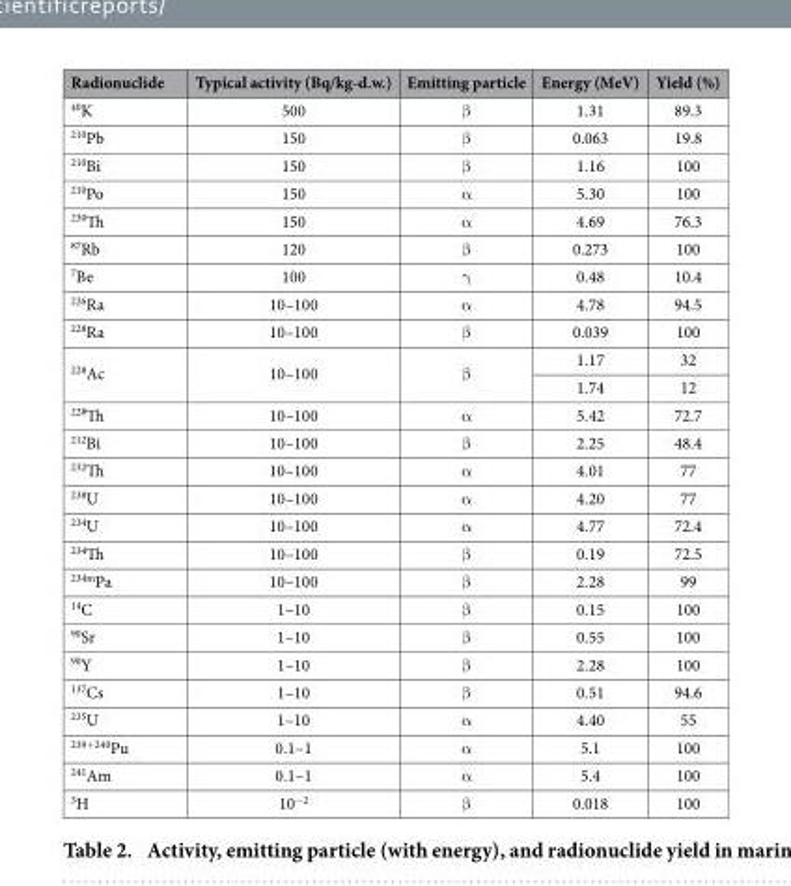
<table><thead><tr><td>Radionuclide</td><td>Typical activity (Bq/kg-d.w.)</td><td>Emitting particle</td><td>Energy (MeV)</td><td>Yield (%)</td></tr></thead><tbody><tr><td><sup>40</sup>K</td><td>500</td><td>β</td><td>1.31</td><td>89.3</td></tr><tr><td><sup>210</sup>Pb</td><td>150</td><td>β</td><td>0.063</td><td>19.8</td></tr><tr><td><sup>210</sup>Bi</td><td>150</td><td>β</td><td>1.16</td><td>100</td></tr><tr><td><sup>210</sup>Po</td><td>150</td><td>α</td><td>5.30</td><td>100</td></tr><tr><td><sup>230</sup>Th</td><td>150</td><td>α</td><td>4.69</td><td>76.3</td></tr><tr><td><sup>87</sup>Rb</td><td>120</td><td>β</td><td>0.273</td><td>100</td></tr><tr><td><sup>7</sup>Be</td><td>100</td><td>γ</td><td>0.48</td><td>10.4</td></tr><tr><td><sup>226</sup>Ra</td><td>10–100</td><td>α</td><td>4.78</td><td>94.5</td></tr><tr><td><sup>228</sup>Ra</td><td>10–100</td><td>β</td><td>0.039</td><td>100</td></tr><tr><td rowspan="2"><sup>228</sup>Ac</td><td rowspan="2">10–100</td><td rowspan="2">β</td><td>1.17</td><td>32</td></tr><tr><td>1.74</td><td>12</td></tr><tr><td><sup>228</sup>Th</td><td>10–100</td><td>α</td><td>5.42</td><td>72.7</td></tr><tr><td><sup>212</sup>Bi</td><td>10–100</td><td>β</td><td>2.25</td><td>48.4</td></tr><tr><td><sup>232</sup>Th</td><td>10–100</td><td>α</td><td>4.01</td><td>77</td></tr><tr><td><sup>238</sup>U</td><td>10–100</td><td>α</td><td>4.20</td><td>77</td></tr><tr><td><sup>234</sup>U</td><td>10–100</td><td>α</td><td>4.77</td><td>72.4</td></tr><tr><td><sup>234</sup>Th</td><td>10–100</td><td>β</td><td>0.19</td><td>72.5</td></tr><tr><td><sup>234m</sup>Pa</td><td>10–100</td><td>β</td><td>2.28</td><td>99</td></tr><tr><td><sup>14</sup>C</td><td>1–10</td><td>β</td><td>0.15</td><td>100</td></tr><tr><td><sup>90</sup>Sr</td><td>1–10</td><td>β</td><td>0.55</td><td>100</td></tr><tr><td><sup>90</sup>Y</td><td>1–10</td><td>β</td><td>2.28</td><td>100</td></tr><tr><td><sup>137</sup>Cs</td><td>1–10</td><td>β</td><td>0.51</td><td>94.6</td></tr><tr><td><sup>235</sup>U</td><td>1–10</td><td>α</td><td>4.40</td><td>55</td></tr><tr><td><sup>239+240</sup>Pu</td><td>0.1–1</td><td>α</td><td>5.1</td><td>100</td></tr><tr><td><sup>241</sup>Am</td><td>0.1–1</td><td>α</td><td>5.4</td><td>100</td></tr><tr><td><sup>3</sup>H</td><td>10<sup>−2</sup></td><td>β</td><td>0.018</td><td>100</td></tr></tbody></table>